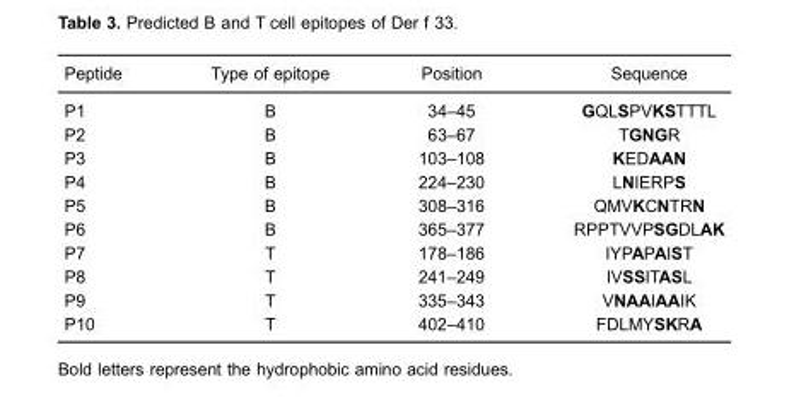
<table><thead><tr><td>Peptide</td><td>Type of epitope</td><td>Position</td><td>Sequence</td></tr></thead><tbody><tr><td>P1</td><td>B</td><td>34–45</td><td>GQLSPVKSTTTL</td></tr><tr><td>P2</td><td>B</td><td>63–67</td><td>TGNGR</td></tr><tr><td>P3</td><td>B</td><td>103–108</td><td>KEDAAN</td></tr><tr><td>P4</td><td>B</td><td>224–230</td><td>LNIERPS</td></tr><tr><td>P5</td><td>B</td><td>308–316</td><td>QMVKCNTRN</td></tr><tr><td>P6</td><td>B</td><td>365–377</td><td>RPPTVVPSGDLAK</td></tr><tr><td>P7</td><td>T</td><td>178–186</td><td>IYPAPAIST</td></tr><tr><td>P8</td><td>T</td><td>241–249</td><td>IVSSITASL</td></tr><tr><td>P9</td><td>T</td><td>335–343</td><td>VNAAIAAIK</td></tr><tr><td>P10</td><td>T</td><td>402–410</td><td>FDLMYSKRA</td></tr></tbody></table>